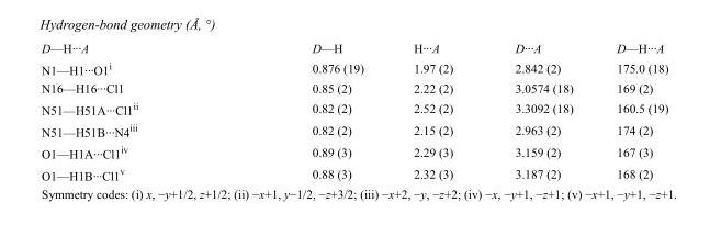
<table><tbody><tr><td>D—H···A</td><td>D—H</td><td>H···A</td><td>D···A</td><td>D—H···A</td></tr><tr><td>N1—H1···O1<sup>i</sup></td><td>0.876 (19)</td><td>1.97 (2)</td><td>2.842 (2)</td><td>175.0 (18)</td></tr><tr><td>N16—H16···Cl1</td><td>0.85 (2)</td><td>2.22 (2)</td><td>3.0574 (18)</td><td>169 (2)</td></tr><tr><td>N51—H51A···Cl1<sup>ii</sup></td><td>0.82 (2)</td><td>2.52 (2)</td><td>3.3092 (18)</td><td>160.5 (19)</td></tr><tr><td>N51—H51B···N4<sup>iii</sup></td><td>0.82 (2)</td><td>2.15 (2)</td><td>2.963 (2)</td><td>174 (2)</td></tr><tr><td>O1—H1A···Cl1<sup>iv</sup></td><td>0.89 (3)</td><td>2.29 (3)</td><td>3.159 (2)</td><td>167 (3)</td></tr><tr><td>O1—H1B···Cl1<sup>v</sup></td><td>0.88 (3)</td><td>2.32 (3)</td><td>3.187 (2)</td><td>168 (2)</td></tr></tbody></table>